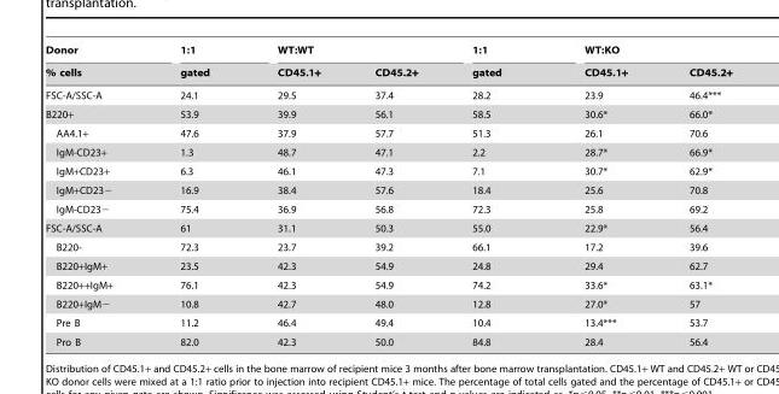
<table><thead><tr><td rowspan="2">Donor % cells</td><td rowspan="2">1:1 gated</td><td colspan="2">WT:WT</td><td rowspan="2">1:1 gated</td><td colspan="2">WT:KO</td></tr><tr><td>CD45.1+</td><td>CD45.2+</td><td>CD45.1+</td><td>CD45.2+</td></tr></thead><tbody><tr><td>FSC-A/SSC-A</td><td>24.1</td><td>29.5</td><td>37.4</td><td>28.2</td><td>23.9</td><td>46.4***</td></tr><tr><td>B220+</td><td>53.9</td><td>39.9</td><td>56.1</td><td>58.5</td><td>30.6*</td><td>66.0*</td></tr><tr><td>AA4.1+</td><td>47.6</td><td>37.9</td><td>57.7</td><td>51.3</td><td>26.1</td><td>70.6</td></tr><tr><td>IgM-CD23+</td><td>1.3</td><td>48.7</td><td>47.1</td><td>2.2</td><td>28.7*</td><td>66.9*</td></tr><tr><td>IgM+CD23+</td><td>6.3</td><td>46.1</td><td>47.3</td><td>7.1</td><td>30.7*</td><td>62.9*</td></tr><tr><td>IgM+CD23−</td><td>16.9</td><td>38.4</td><td>57.6</td><td>18.4</td><td>25.6</td><td>70.8</td></tr><tr><td>IgM-CD23−</td><td>75.4</td><td>36.9</td><td>56.8</td><td>72.3</td><td>25.8</td><td>69.2</td></tr><tr><td>FSC-A/SSC-A</td><td>61</td><td>31.1</td><td>50.3</td><td>55.0</td><td>22.9*</td><td>56.4</td></tr><tr><td>B220-</td><td>72.3</td><td>23.7</td><td>39.2</td><td>66.1</td><td>17.2</td><td>39.6</td></tr><tr><td>B220+IgM+</td><td>23.5</td><td>42.3</td><td>54.9</td><td>24.8</td><td>29.4</td><td>62.7</td></tr><tr><td>B220++IgM+</td><td>76.1</td><td>42.3</td><td>54.9</td><td>74.2</td><td>33.6*</td><td>63.1*</td></tr><tr><td>B220+IgM−</td><td>10.8</td><td>42.7</td><td>48.0</td><td>12.8</td><td>27.0*</td><td>57</td></tr><tr><td>Pre B</td><td>11.2</td><td>46.4</td><td>49.4</td><td>10.4</td><td>13.4***</td><td>53.7</td></tr><tr><td>Pro B</td><td>82.0</td><td>42.3</td><td>50.0</td><td>84.8</td><td>28.4</td><td>56.4</td></tr></tbody></table>